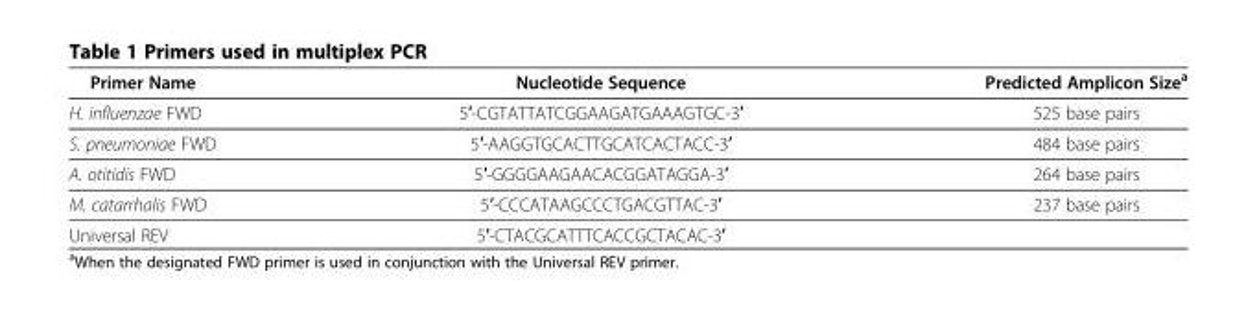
<table><thead><tr><td>Primer Name</td><td>Nucleotide Sequence</td><td>Predicted Amplicon Size<sup>a</sup></td></tr></thead><tbody><tr><td>H. influenzae FWD</td><td>5′-CGTATTATCGGAAGATGAAAGTGC-3′</td><td>525 base pairs</td></tr><tr><td>S. pneumoniae FWD</td><td>5′-AAGGTGCACTTGCATCACTACC-3′</td><td>484 base pairs</td></tr><tr><td>A. otitidis FWD</td><td>5′-GGGGAAGAACACGGATAGGA-3′</td><td>264 base pairs</td></tr><tr><td>M. catarrhalis FWD</td><td>5′-CCCATAAGCCCTGACGTTAC-3′</td><td>237 base pairs</td></tr><tr><td>Universal REV</td><td>5′-CTACGCATTTCACCGCTACAC-3′</td><td></td></tr></tbody></table>